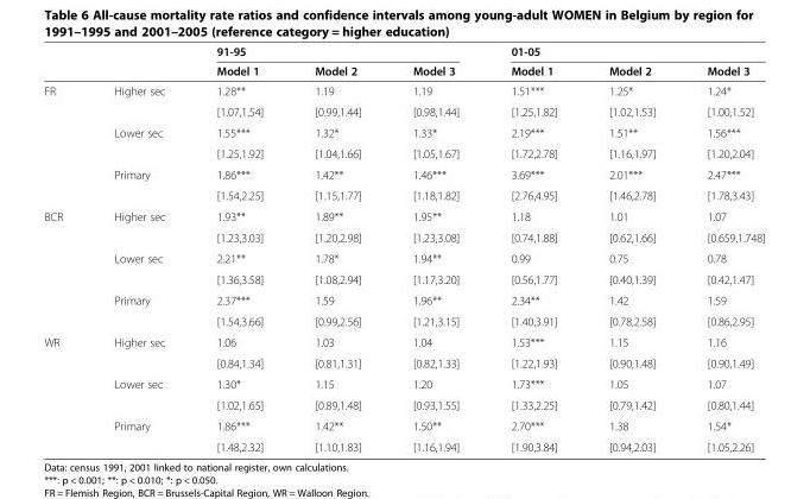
<table><thead><tr><td rowspan="2"></td><td rowspan="2"></td><td colspan="3">91-95</td><td colspan="3">01-05</td></tr><tr><td>Model 1</td><td>Model 2</td><td>Model 3</td><td>Model 1</td><td>Model 2</td><td>Model 3</td></tr></thead><tbody><tr><td rowspan="6">FR</td><td>Higher sec</td><td>1.28**</td><td>1.19</td><td>1.19</td><td>1.51***</td><td>1.25*</td><td>1.24*</td></tr><tr><td></td><td>[1.07,1.54]</td><td>[0.99,1.44]</td><td>[0.98,1.44]</td><td>[1.25,1.82]</td><td>[1.02,1.53]</td><td>[1.00,1.52]</td></tr><tr><td>Lower sec</td><td>1.55***</td><td>1.32*</td><td>1.33*</td><td>2.19***</td><td>1.51**</td><td>1.56***</td></tr><tr><td></td><td>[1.25,1.92]</td><td>[1.04,1.66]</td><td>[1.05,1.67]</td><td>[1.72,2.78]</td><td>[1.16,1.97]</td><td>[1.20,2.04]</td></tr><tr><td>Primary</td><td>1.86***</td><td>1.42**</td><td>1.46***</td><td>3.69***</td><td>2.01***</td><td>2.47***</td></tr><tr><td></td><td>[1.54,2.25]</td><td>[1.15,1.77]</td><td>[1.18,1.82]</td><td>[2.76,4.95]</td><td>[1.46,2.78]</td><td>[1.78,3.43]</td></tr><tr><td rowspan="6">BCR</td><td>Higher sec</td><td>1.93**</td><td>1.89**</td><td>1.95**</td><td>1.18</td><td>1.01</td><td>1.07</td></tr><tr><td></td><td>[1.23,3.03]</td><td>[1.20,2.98]</td><td>[1.23,3.08]</td><td>[0.74,1.88]</td><td>[0.62,1.66]</td><td>[0.659,1.748]</td></tr><tr><td>Lower sec</td><td>2.21**</td><td>1.78*</td><td>1.94**</td><td>0.99</td><td>0.75</td><td>0.78</td></tr><tr><td></td><td>[1.36,3.58]</td><td>[1.08,2.94]</td><td>[1.17,3.20]</td><td>[0.56,1.77]</td><td>[0.40,1.39]</td><td>[0.42,1.47]</td></tr><tr><td>Primary</td><td>2.37***</td><td>1.59</td><td>1.96**</td><td>2.34**</td><td>1.42</td><td>1.59</td></tr><tr><td></td><td>[1.54,3.66]</td><td>[0.99,2.56]</td><td>[1.21,3.15]</td><td>[1.40,3.91]</td><td>[0.78,2.58]</td><td>[0.86,2.95]</td></tr><tr><td rowspan="6">WR</td><td>Higher sec</td><td>1.06</td><td>1.03</td><td>1.04</td><td>1.53***</td><td>1.15</td><td>1.16</td></tr><tr><td></td><td>[0.84,1.34]</td><td>[0.81,1.31]</td><td>[0.82,1.33]</td><td>[1.22,1.93]</td><td>[0.90,1.48]</td><td>[0.90,1.49]</td></tr><tr><td>Lower sec</td><td>1.30*</td><td>1.15</td><td>1.20</td><td>1.73***</td><td>1.05</td><td>1.07</td></tr><tr><td></td><td>[1.02,1.65]</td><td>[0.89,1.48]</td><td>[0.93,1.55]</td><td>[1.33,2.25]</td><td>[0.79,1.42]</td><td>[0.80,1.44]</td></tr><tr><td>Primary</td><td>1.86***</td><td>1.42**</td><td>1.50**</td><td>2.70***</td><td>1.38</td><td>1.54*</td></tr><tr><td></td><td>[1.48,2.32]</td><td>[1.10,1.83]</td><td>[1.16,1.94]</td><td>[1.90,3.84]</td><td>[0.94,2.03]</td><td>[1.05,2.26]</td></tr></tbody></table>